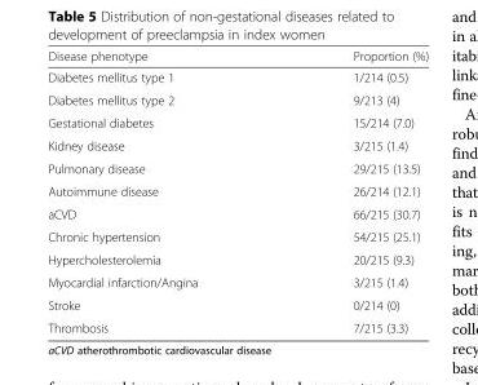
<table><thead><tr><td>Disease phenotype</td><td>Proportion (%)</td></tr></thead><tbody><tr><td>Diabetes mellitus type 1</td><td>1/214 (0.5)</td></tr><tr><td>Diabetes mellitus type 2</td><td>9/213 (4)</td></tr><tr><td>Gestational diabetes</td><td>15/214 (7.0)</td></tr><tr><td>Kidney disease</td><td>3/215 (1.4)</td></tr><tr><td>Pulmonary disease</td><td>29/215 (13.5)</td></tr><tr><td>Autoimmune disease</td><td>26/214 (12.1)</td></tr><tr><td>aCVD</td><td>66/215 (30.7)</td></tr><tr><td>Chronic hypertension</td><td>54/215 (25.1)</td></tr><tr><td>Hypercholesterolemia</td><td>20/215 (9.3)</td></tr><tr><td>Myocardial infarction/Angina</td><td>3/215 (1.4)</td></tr><tr><td>Stroke</td><td>0/214 (0)</td></tr><tr><td>Thrombosis</td><td>7/215 (3.3)</td></tr></tbody></table>